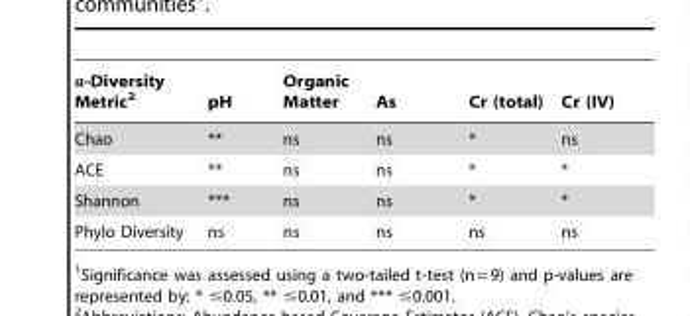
<table><thead><tr><td>α-Diversity Metric<sup>2</sup></td><td>pH</td><td>Organic Matter</td><td>As</td><td>Cr (total)</td><td>Cr (IV)</td></tr></thead><tbody><tr><td>Chao</td><td>**</td><td>ns</td><td>ns</td><td>*</td><td>ns</td></tr><tr><td>ACE</td><td>**</td><td>ns</td><td>ns</td><td>*</td><td>*</td></tr><tr><td>Shannon</td><td>***</td><td>ns</td><td>ns</td><td>*</td><td>*</td></tr><tr><td>Phylo Diversity</td><td>ns</td><td>ns</td><td>ns</td><td>ns</td><td>ns</td></tr></tbody></table>